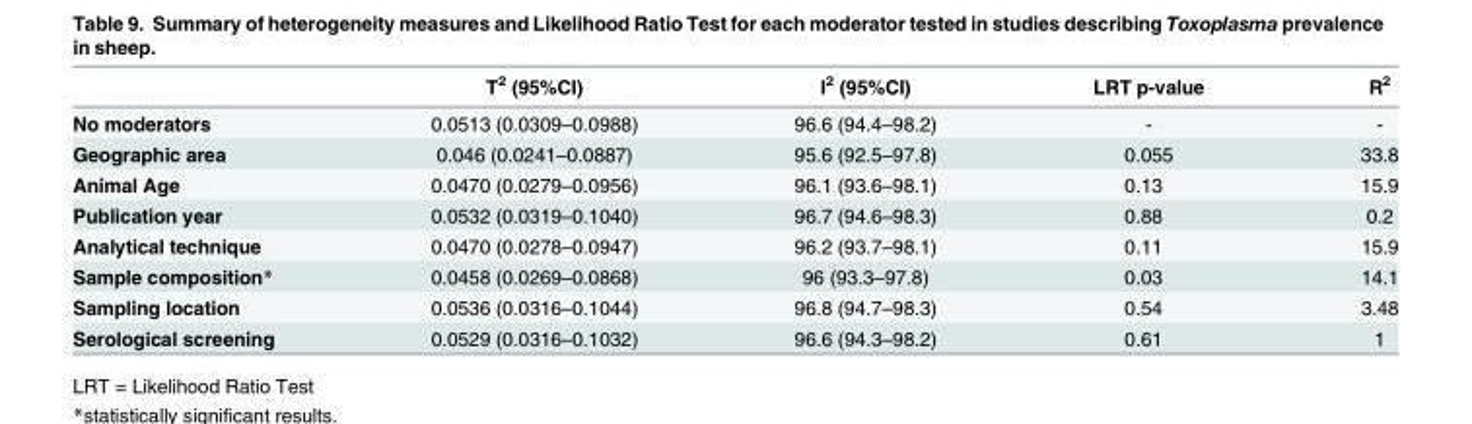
<table><thead><tr><td></td><td>T<sup>2</sup> (95%CI)</td><td>I<sup>2</sup> (95%CI)</td><td>LRT p-value</td><td>R<sup>2</sup></td></tr></thead><tbody><tr><td>No moderators</td><td>0.0513 (0.0309–0.0988)</td><td>96.6 (94.4–98.2)</td><td>-</td><td>-</td></tr><tr><td>Geographic area</td><td>0.046 (0.0241–0.0887)</td><td>95.6 (92.5–97.8)</td><td>0.055</td><td>33.8</td></tr><tr><td>Animal Age</td><td>0.0470 (0.0279–0.0956)</td><td>96.1 (93.6–98.1)</td><td>0.13</td><td>15.9</td></tr><tr><td>Publication year</td><td>0.0532 (0.0319–0.1040)</td><td>96.7 (94.6–98.3)</td><td>0.88</td><td>0.2</td></tr><tr><td>Analytical technique</td><td>0.0470 (0.0278–0.0947)</td><td>96.2 (93.7–98.1)</td><td>0.11</td><td>15.9</td></tr><tr><td>Sample composition*</td><td>0.0458 (0.0269–0.0868)</td><td>96 (93.3–97.8)</td><td>0.03</td><td>14.1</td></tr><tr><td>Sampling location</td><td>0.0536 (0.0316–0.1044)</td><td>96.8 (94.7–98.3)</td><td>0.54</td><td>3.48</td></tr><tr><td>Serological screening</td><td>0.0529 (0.0316–0.1032)</td><td>96.6 (94.3–98.2)</td><td>0.61</td><td>1</td></tr></tbody></table>